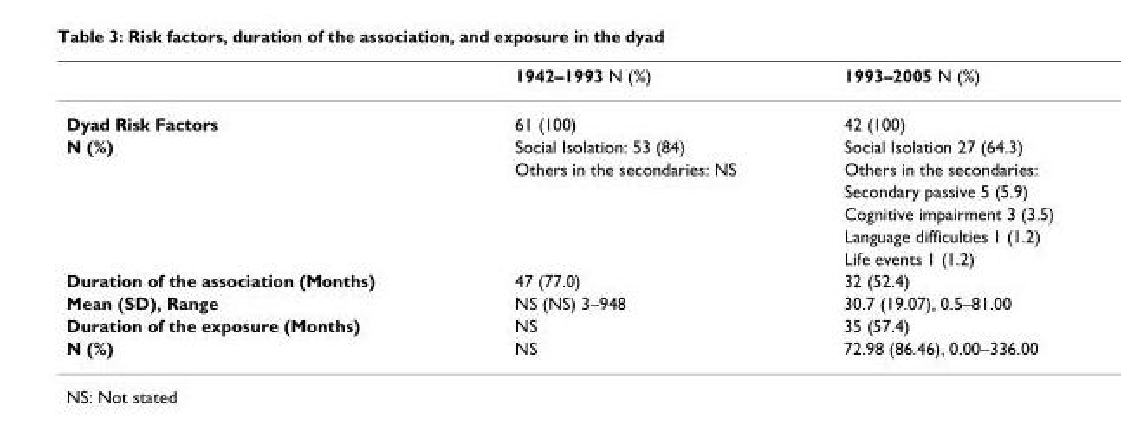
<table><thead><tr><td></td><td>1942–1993 N (%)</td><td>1993–2005 N (%)</td></tr></thead><tbody><tr><td>Dyad Risk Factors</td><td>61 (100)</td><td>42 (100)</td></tr><tr><td rowspan="6">N (%)</td><td>Social Isolation: 53 (84)</td><td>Social Isolation 27 (64.3)</td></tr><tr><td>Others in the secondaries: NS</td><td>Others in the secondaries:</td></tr><tr><td></td><td>Secondary passive 5 (5.9)</td></tr><tr><td></td><td>Cognitive impairment 3 (3.5)</td></tr><tr><td></td><td>Language difficulties 1 (1.2)</td></tr><tr><td></td><td>Life events 1 (1.2)</td></tr><tr><td>Duration of the association (Months)</td><td>47 (77.0)</td><td>32 (52.4)</td></tr><tr><td>Mean (SD), Range</td><td>NS (NS) 3–948</td><td>30.7 (19.07), 0.5–81.00</td></tr><tr><td>Duration of the exposure (Months)</td><td>NS</td><td>35 (57.4)</td></tr><tr><td>N (%)</td><td>NS</td><td>72.98 (86.46), 0.00–336.00</td></tr></tbody></table>